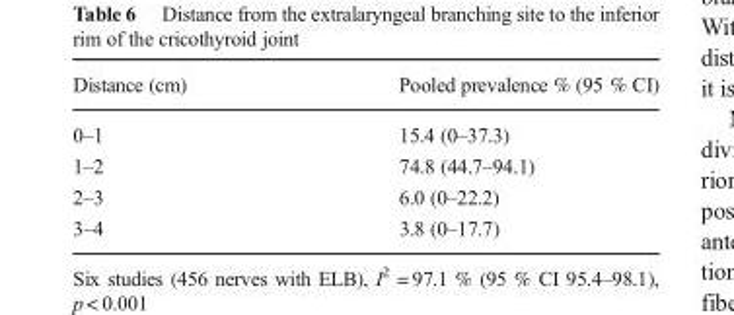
<table><thead><tr><td>Distance (cm)</td><td>Pooled prevalence % (95 % CI)</td></tr></thead><tbody><tr><td>0–1</td><td>15.4 (0–37.3)</td></tr><tr><td>1–2</td><td>74.8 (44.7–94.1)</td></tr><tr><td>2–3</td><td>6.0 (0–22.2)</td></tr><tr><td>3–4</td><td>3.8 (0–17.7)</td></tr></tbody></table>